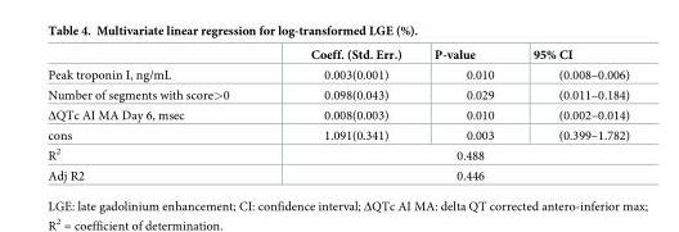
<table><thead><tr><td></td><td>Coeff. (Std. Err.)</td><td>P-value</td><td>95% CI</td></tr></thead><tbody><tr><td>Peak troponin I, ng/mL</td><td>0.003(0.001)</td><td>0.010</td><td>(0.008–0.006)</td></tr><tr><td>Number of segments with score&gt;0</td><td>0.098(0.043)</td><td>0.029</td><td>(0.011–0.184)</td></tr><tr><td>ΔQTc AI MA Day 6, msec</td><td>0.008(0.003)</td><td>0.010</td><td>(0.002–0.014)</td></tr><tr><td>cons</td><td>1.091(0.341)</td><td>0.003</td><td>(0.399–1.782)</td></tr><tr><td>R<sup>2</sup></td><td colspan="3">0.488</td></tr><tr><td>Adj R2</td><td colspan="3">0.446</td></tr></tbody></table>